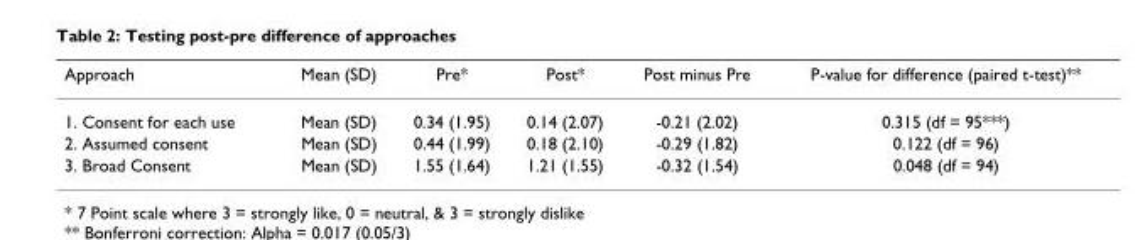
<table><thead><tr><td>Approach</td><td>Mean (SD)</td><td>Pre*</td><td>Post*</td><td>Post minus Pre</td><td>P-value for difference (paired t-test)**</td></tr></thead><tbody><tr><td>1. Consent for each use</td><td>Mean (SD)</td><td>0.34 (1.95)</td><td>0.14 (2.07)</td><td>-0.21 (2.02)</td><td>0.315 (df = 95***)</td></tr><tr><td>2. Assumed consent</td><td>Mean (SD)</td><td>0.44 (1.99)</td><td>0.18 (2.10)</td><td>-0.29 (1.82)</td><td>0.122 (df = 96)</td></tr><tr><td>3. Broad Consent</td><td>Mean (SD)</td><td>1.55 (1.64)</td><td>1.21 (1.55)</td><td>-0.32 (1.54)</td><td>0.048 (df = 94)</td></tr></tbody></table>